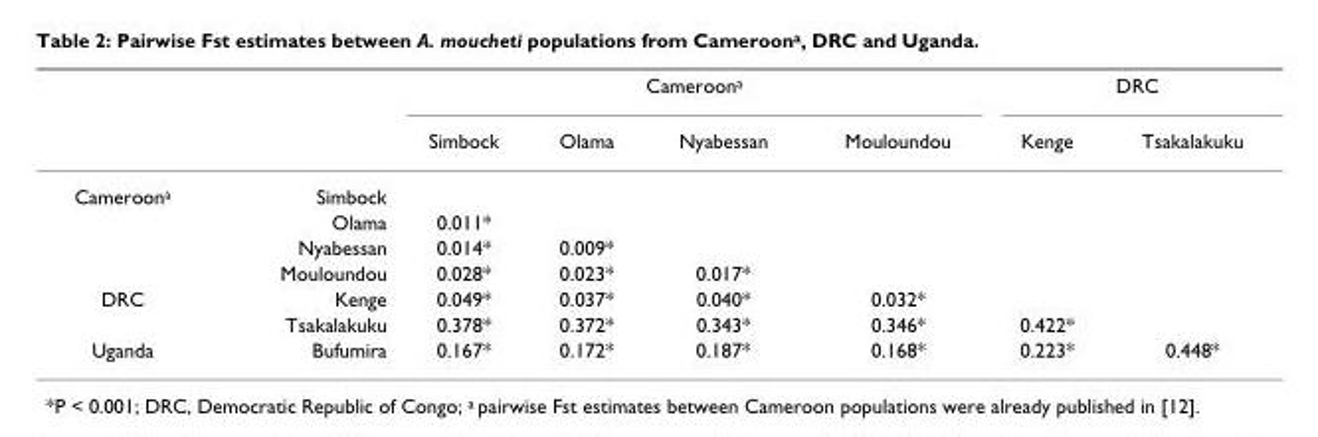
<table><thead><tr><td rowspan="2"></td><td rowspan="2"></td><td colspan="4">Cameroon<sup>a</sup></td><td colspan="2">DRC</td></tr><tr><td>Simbock</td><td>Olama</td><td>Nyabessan</td><td>Mouloundou</td><td>Kenge</td><td>Tsakalakuku</td></tr></thead><tbody><tr><td rowspan="4">Cameroon<sup>a</sup></td><td>Simbock</td><td></td><td></td><td></td><td></td><td></td><td></td></tr><tr><td>Olama</td><td>0.011*</td><td></td><td></td><td></td><td></td><td></td></tr><tr><td>Nyabessan</td><td>0.014*</td><td>0.009*</td><td></td><td></td><td></td><td></td></tr><tr><td>Mouloundou</td><td>0.028*</td><td>0.023*</td><td>0.017*</td><td></td><td></td><td></td></tr><tr><td rowspan="2">DRC</td><td>Kenge</td><td>0.049*</td><td>0.037*</td><td>0.040*</td><td>0.032*</td><td></td><td></td></tr><tr><td>Tsakalakuku</td><td>0.378*</td><td>0.372*</td><td>0.343*</td><td>0.346*</td><td>0.422*</td><td></td></tr><tr><td>Uganda</td><td>Bufumira</td><td>0.167*</td><td>0.172*</td><td>0.187*</td><td>0.168*</td><td>0.223*</td><td>0.448*</td></tr></tbody></table>